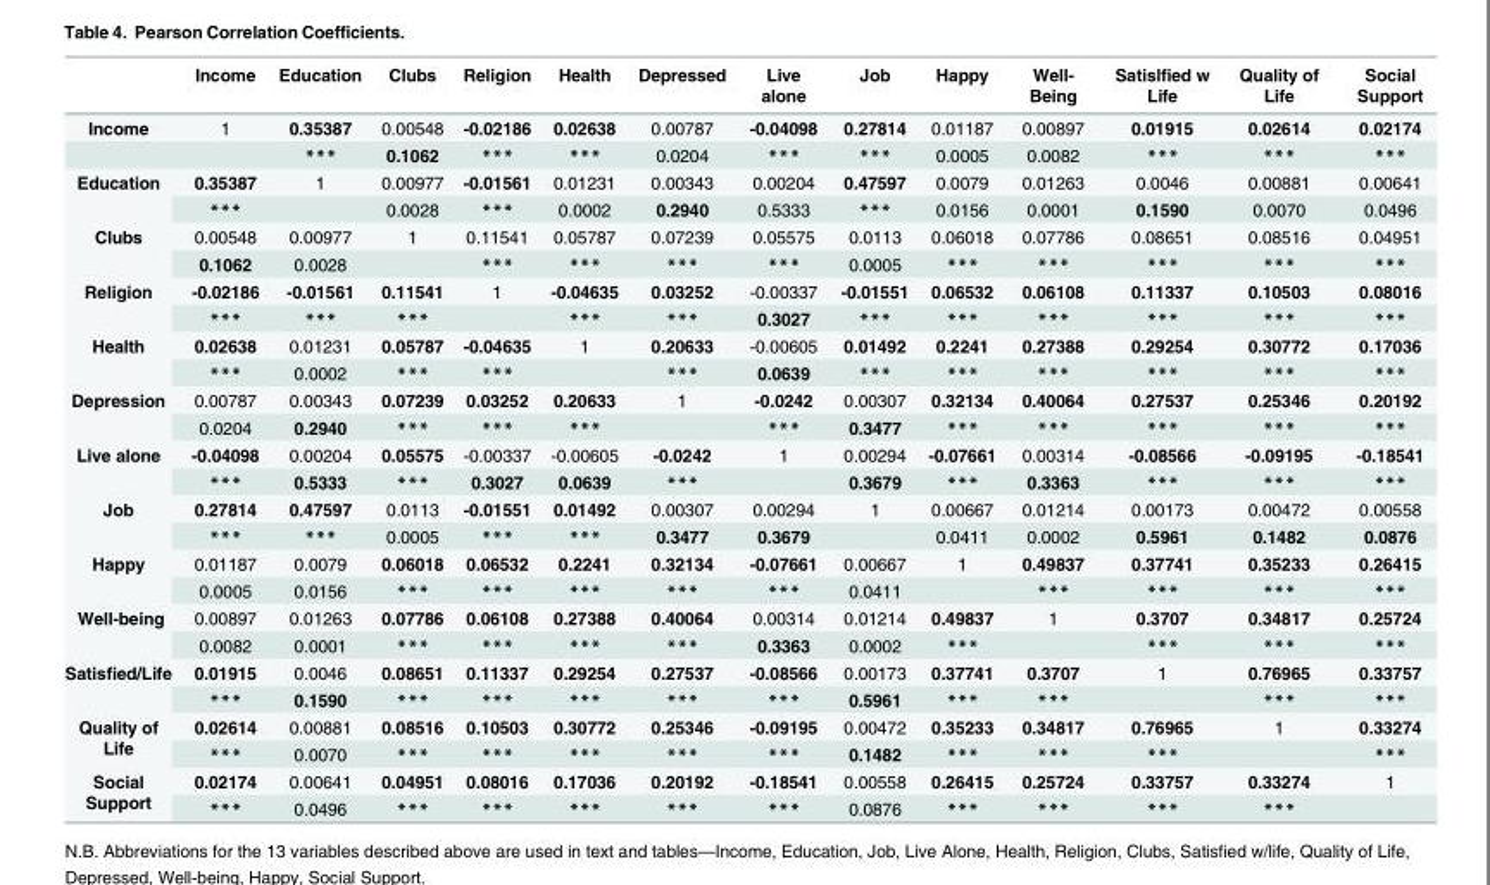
<table><thead><tr><td></td><td>Income</td><td>Education</td><td>Clubs</td><td>Religion</td><td>Health</td><td>Depressed</td><td>Live alone</td><td>Job</td><td>Happy</td><td>Well- Being</td><td>Satislfied w Life</td><td>Quality of Life</td><td>Social Support</td></tr></thead><tbody><tr><td rowspan="2">Income</td><td>1</td><td>0.35387</td><td>0.00548</td><td>-0.02186</td><td>0.02638</td><td>0.00787</td><td>-0.04098</td><td>0.27814</td><td>0.01187</td><td>0.00897</td><td>0.01915</td><td>0.02614</td><td>0.02174</td></tr><tr><td></td><td>***</td><td>0.1062</td><td>***</td><td>***</td><td>0.0204</td><td>***</td><td>***</td><td>0.0005</td><td>0.0082</td><td>***</td><td>***</td><td>***</td></tr><tr><td rowspan="2">Education</td><td>0.35387</td><td>1</td><td>0.00977</td><td>-0.01561</td><td>0.01231</td><td>0.00343</td><td>0.00204</td><td>0.47597</td><td>0.0079</td><td>0.01263</td><td>0.0046</td><td>0.00881</td><td>0.00641</td></tr><tr><td>***</td><td></td><td>0.0028</td><td>***</td><td>0.0002</td><td>0.2940</td><td>0.5333</td><td>***</td><td>0.0156</td><td>0.0001</td><td>0.1590</td><td>0.0070</td><td>0.0496</td></tr><tr><td rowspan="2">Clubs</td><td>0.00548</td><td>0.00977</td><td>1</td><td>0.11541</td><td>0.05787</td><td>0.07239</td><td>0.05575</td><td>0.0113</td><td>0.06018</td><td>0.07786</td><td>0.08651</td><td>0.08516</td><td>0.04951</td></tr><tr><td>0.1062</td><td>0.0028</td><td></td><td>***</td><td>***</td><td>***</td><td>***</td><td>0.0005</td><td>***</td><td>***</td><td>***</td><td>***</td><td>***</td></tr><tr><td rowspan="2">Religion</td><td>-0.02186</td><td>-0.01561</td><td>0.11541</td><td>1</td><td>-0.04635</td><td>0.03252</td><td>-0.00337</td><td>-0.01551</td><td>0.06532</td><td>0.06108</td><td>0.11337</td><td>0.10503</td><td>0.08016</td></tr><tr><td>***</td><td>***</td><td>***</td><td></td><td>***</td><td>***</td><td>0.3027</td><td>***</td><td>***</td><td>***</td><td>***</td><td>***</td><td>***</td></tr><tr><td rowspan="2">Health</td><td>0.02638</td><td>0.01231</td><td>0.05787</td><td>-0.04635</td><td>1</td><td>0.20633</td><td>-0.00605</td><td>0.01492</td><td>0.2241</td><td>0.27388</td><td>0.29254</td><td>0.30772</td><td>0.17036</td></tr><tr><td>***</td><td>0.0002</td><td>***</td><td>***</td><td></td><td>***</td><td>0.0639</td><td>***</td><td>***</td><td>***</td><td>***</td><td>***</td><td>***</td></tr><tr><td rowspan="2">Depression</td><td>0.00787</td><td>0.00343</td><td>0.07239</td><td>0.03252</td><td>0.20633</td><td>1</td><td>-0.0242</td><td>0.00307</td><td>0.32134</td><td>0.40064</td><td>0.27537</td><td>0.25346</td><td>0.20192</td></tr><tr><td>0.0204</td><td>0.2940</td><td>***</td><td>***</td><td>***</td><td></td><td>***</td><td>0.3477</td><td>***</td><td>***</td><td>***</td><td>***</td><td>***</td></tr><tr><td rowspan="2">Live alone</td><td>-0.04098</td><td>0.00204</td><td>0.05575</td><td>-0.00337</td><td>-0.00605</td><td>-0.0242</td><td>1</td><td>0.00294</td><td>-0.07661</td><td>0.00314</td><td>-0.08566</td><td>-0.09195</td><td>-0.18541</td></tr><tr><td>***</td><td>0.5333</td><td>***</td><td>0.3027</td><td>0.0639</td><td>***</td><td></td><td>0.3679</td><td>***</td><td>0.3363</td><td>***</td><td>***</td><td>***</td></tr><tr><td rowspan="2">Job</td><td>0.27814</td><td>0.47597</td><td>0.0113</td><td>-0.01551</td><td>0.01492</td><td>0.00307</td><td>0.00294</td><td>1</td><td>0.00667</td><td>0.01214</td><td>0.00173</td><td>0.00472</td><td>0.00558</td></tr><tr><td>***</td><td>***</td><td>0.0005</td><td>***</td><td>***</td><td>0.3477</td><td>0.3679</td><td></td><td>0.0411</td><td>0.0002</td><td>0.5961</td><td>0.1482</td><td>0.0876</td></tr><tr><td rowspan="2">Happy</td><td>0.01187</td><td>0.0079</td><td>0.06018</td><td>0.06532</td><td>0.2241</td><td>0.32134</td><td>-0.07661</td><td>0.00667</td><td>1</td><td>0.49837</td><td>0.37741</td><td>0.35233</td><td>0.26415</td></tr><tr><td>0.0005</td><td>0.0156</td><td>***</td><td>***</td><td>***</td><td>***</td><td>***</td><td>0.0411</td><td></td><td>***</td><td>***</td><td>***</td><td>***</td></tr><tr><td rowspan="2">Well-being</td><td>0.00897</td><td>0.01263</td><td>0.07786</td><td>0.06108</td><td>0.27388</td><td>0.40064</td><td>0.00314</td><td>0.01214</td><td>0.49837</td><td>1</td><td>0.3707</td><td>0.34817</td><td>0.25724</td></tr><tr><td>0.0082</td><td>0.0001</td><td>***</td><td>***</td><td>***</td><td>***</td><td>0.3363</td><td>0.0002</td><td>***</td><td></td><td>***</td><td>***</td><td>***</td></tr><tr><td rowspan="2">Satisfied/Life</td><td>0.01915</td><td>0.0046</td><td>0.08651</td><td>0.11337</td><td>0.29254</td><td>0.27537</td><td>-0.08566</td><td>0.00173</td><td>0.37741</td><td>0.3707</td><td>1</td><td>0.76965</td><td>0.33757</td></tr><tr><td>***</td><td>0.1590</td><td>***</td><td>***</td><td>***</td><td>***</td><td>***</td><td>0.5961</td><td>***</td><td>***</td><td></td><td>***</td><td>***</td></tr><tr><td rowspan="2">Quality of Life</td><td>0.02614</td><td>0.00881</td><td>0.08516</td><td>0.10503</td><td>0.30772</td><td>0.25346</td><td>-0.09195</td><td>0.00472</td><td>0.35233</td><td>0.34817</td><td>0.76965</td><td>1</td><td>0.33274</td></tr><tr><td>***</td><td>0.0070</td><td>***</td><td>***</td><td>***</td><td>***</td><td>***</td><td>0.1482</td><td>***</td><td>***</td><td>***</td><td></td><td>***</td></tr><tr><td rowspan="2">Social Support</td><td>0.02174</td><td>0.00641</td><td>0.04951</td><td>0.08016</td><td>0.17036</td><td>0.20192</td><td>-0.18541</td><td>0.00558</td><td>0.26415</td><td>0.25724</td><td>0.33757</td><td>0.33274</td><td>1</td></tr><tr><td>***</td><td>0.0496</td><td>***</td><td>***</td><td>***</td><td>***</td><td>***</td><td>0.0876</td><td>***</td><td>***</td><td>***</td><td>***</td><td></td></tr></tbody></table>